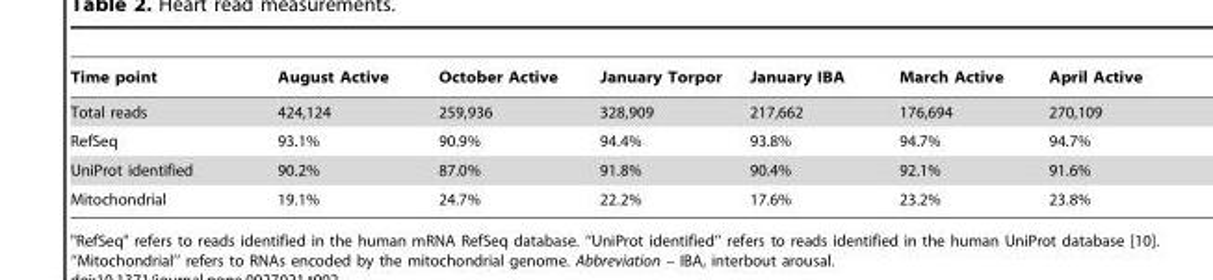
<table><thead><tr><td>Time point</td><td>August Active</td><td>October Active</td><td>January Torpor</td><td>January IBA</td><td>March Active</td><td>April Active</td></tr></thead><tbody><tr><td>Total reads</td><td>424,124</td><td>259,936</td><td>328,909</td><td>217,662</td><td>176,694</td><td>270,109</td></tr><tr><td>RefSeq</td><td>93.1%</td><td>90.9%</td><td>94.4%</td><td>93.8%</td><td>94.7%</td><td>94.7%</td></tr><tr><td>UniProt identified</td><td>90.2%</td><td>87.0%</td><td>91.8%</td><td>90.4%</td><td>92.1%</td><td>91.6%</td></tr><tr><td>Mitochondrial</td><td>19.1%</td><td>24.7%</td><td>22.2%</td><td>17.6%</td><td>23.2%</td><td>23.8%</td></tr></tbody></table>